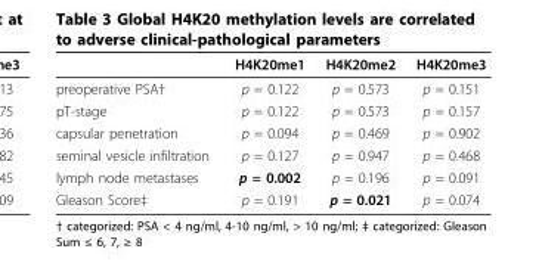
<table><thead><tr><td></td><td>H4K20me1</td><td>H4K20me2</td><td>H4K20me3</td></tr></thead><tbody><tr><td>preoperative PSA†</td><td>p = 0.122</td><td>p = 0.573</td><td>p = 0.151</td></tr><tr><td>pT-stage</td><td>p = 0.122</td><td>p = 0.573</td><td>p = 0.157</td></tr><tr><td>capsular penetration</td><td>p = 0.094</td><td>p = 0.469</td><td>p = 0.902</td></tr><tr><td>seminal vesicle infiltration</td><td>p = 0.127</td><td>p = 0.947</td><td>p = 0.468</td></tr><tr><td>lymph node metastases</td><td>p = 0.002</td><td>p = 0.196</td><td>p = 0.091</td></tr><tr><td>Gleason Score‡</td><td>p = 0.191</td><td>p = 0.021</td><td>p = 0.074</td></tr></tbody></table>